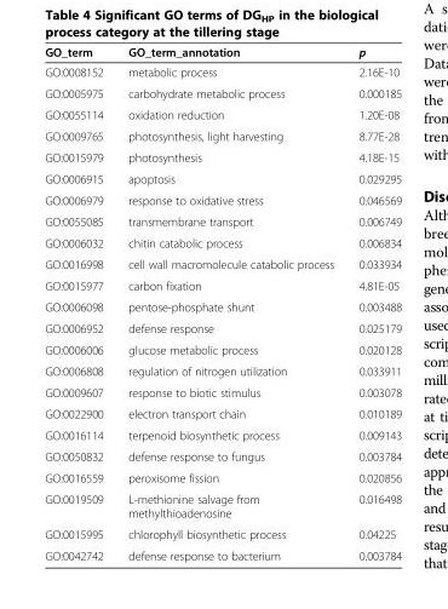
<table><thead><tr><td>GO_term</td><td>GO_term_annotation</td><td>p</td></tr></thead><tbody><tr><td>GO:0008152</td><td>metabolic process</td><td>2.16E-10</td></tr><tr><td>GO:0005975</td><td>carbohydrate metabolic process</td><td>0.000185</td></tr><tr><td>GO:0055114</td><td>oxidation reduction</td><td>1.20E-08</td></tr><tr><td>GO:0009765</td><td>photosynthesis, light harvesting</td><td>8.77E-28</td></tr><tr><td>GO:0015979</td><td>photosynthesis</td><td>4.18E-15</td></tr><tr><td>GO:0006915</td><td>apoptosis</td><td>0.029295</td></tr><tr><td>GO:0006979</td><td>response to oxidative stress</td><td>0.046569</td></tr><tr><td>GO:0055085</td><td>transmembrane transport</td><td>0.006749</td></tr><tr><td>GO:0006032</td><td>chitin catabolic process</td><td>0.006834</td></tr><tr><td>GO:0016998</td><td>cell wall macromolecule catabolic process</td><td>0.033934</td></tr><tr><td>GO:0015977</td><td>carbon fixation</td><td>4.81E-05</td></tr><tr><td>GO:0006098</td><td>pentose-phosphate shunt</td><td>0.003488</td></tr><tr><td>GO:0006952</td><td>defense response</td><td>0.025179</td></tr><tr><td>GO:0006006</td><td>glucose metabolic process</td><td>0.020128</td></tr><tr><td>GO:0006808</td><td>regulation of nitrogen utilization</td><td>0.033911</td></tr><tr><td>GO:0009607</td><td>response to biotic stimulus</td><td>0.003078</td></tr><tr><td>GO:0022900</td><td>electron transport chain</td><td>0.010189</td></tr><tr><td>GO:0016114</td><td>terpenoid biosynthetic process</td><td>0.009143</td></tr><tr><td>GO:0050832</td><td>defense response to fungus</td><td>0.003784</td></tr><tr><td>GO:0016559</td><td>peroxisome fission</td><td>0.020856</td></tr><tr><td>GO:0019509</td><td>L-methionine salvage from methylthioadenosine</td><td>0.016498</td></tr><tr><td>GO:0015995</td><td>chlorophyll biosynthetic process</td><td>0.04225</td></tr><tr><td>GO:0042742</td><td>defense response to bacterium</td><td>0.003784</td></tr></tbody></table>